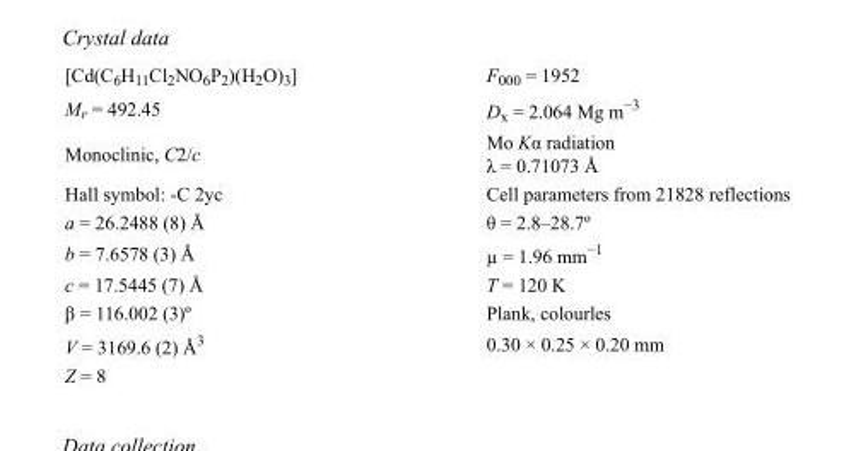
<table><tbody><tr><td>[Cd(C<sub>6</sub>H<sub>11</sub>Cl<sub>2</sub>NO<sub>6</sub>P<sub>2</sub>)(H<sub>2</sub>O)<sub>3</sub>]</td><td>F000 = 1952</td></tr><tr><td>M<sub>r</sub> = 492.45</td><td>D<sub>x</sub> = 2.064 Mg m<sup>−3</sup></td></tr><tr><td>Monoclinic, C2/c</td><td>Mo Kα radiation λ = 0.71073 Å</td></tr><tr><td>Hall symbol: -C 2yc</td><td>Cell parameters from 21828 reflections</td></tr><tr><td>a = 26.2488 (8) Å</td><td>θ = 2.8–28.7º</td></tr><tr><td>b = 7.6578 (3) Å</td><td>µ = 1.96 mm<sup>−1</sup></td></tr><tr><td>c = 17.5445 (7) Å</td><td>T = 120 K</td></tr><tr><td>β = 116.002 (3)º</td><td>Plank, colourles</td></tr><tr><td>V = 3169.6 (2) Å<sup>3</sup></td><td>0.30 × 0.25 × 0.20 mm</td></tr><tr><td>Z = 8</td><td></td></tr></tbody></table>